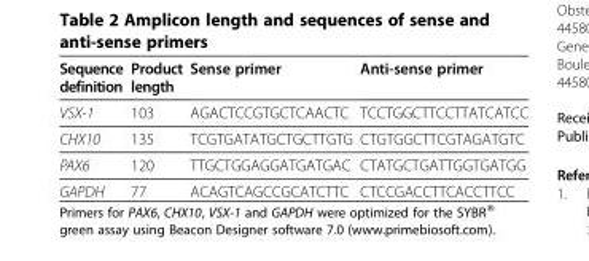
<table><thead><tr><td>Sequence definition</td><td>Product length</td><td>Sense primer</td><td>Anti-sense primer</td></tr></thead><tbody><tr><td>VSX-1</td><td>103</td><td>AGACTCCGTGCTCAACTC</td><td>TCCTGGCTTCCTTATCATCC</td></tr><tr><td>CHX10</td><td>135</td><td>TCGTGATATGCTGCTTGTG</td><td>CTGTGGCTTCGTAGATGTC</td></tr><tr><td>PAX6</td><td>120</td><td>TTGCTGGAGGATGATGAC</td><td>CTATGCTGATTGGTGATGG</td></tr><tr><td>GAPDH</td><td>77</td><td>ACAGTCAGCCGCATCTTC</td><td>CTCCGACCTTCACCTTCC</td></tr></tbody></table>